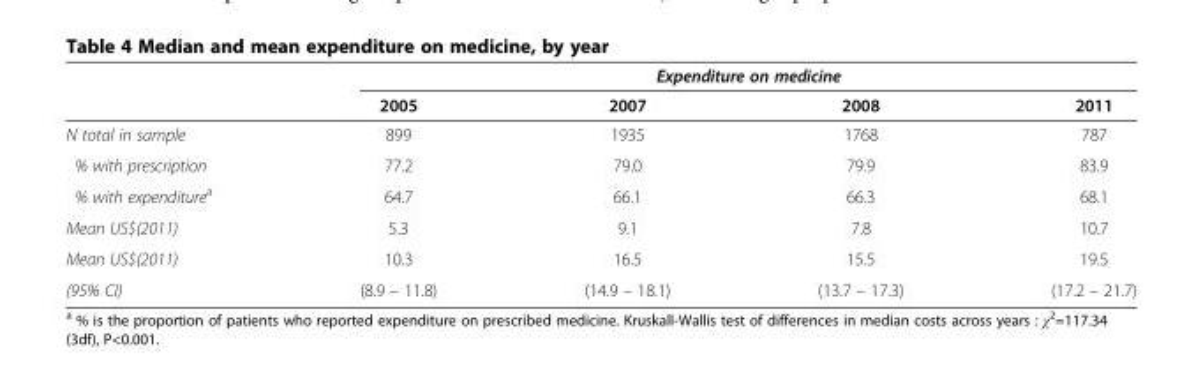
<table><thead><tr><td rowspan="2"></td><td colspan="4">Expenditure on medicine</td></tr><tr><td>2005</td><td>2007</td><td>2008</td><td>2011</td></tr></thead><tbody><tr><td>N total in sample</td><td>899</td><td>1935</td><td>1768</td><td>787</td></tr><tr><td>% with prescription</td><td>77.2</td><td>79.0</td><td>79.9</td><td>83.9</td></tr><tr><td>% with expenditure<sup>a</sup></td><td>64.7</td><td>66.1</td><td>66.3</td><td>68.1</td></tr><tr><td>Mean US$(2011)</td><td>5.3</td><td>9.1</td><td>7.8</td><td>10.7</td></tr><tr><td>Mean US$(2011)</td><td>10.3</td><td>16.5</td><td>15.5</td><td>19.5</td></tr><tr><td>(95% CI)</td><td>(8.9 – 11.8)</td><td>(14.9 – 18.1)</td><td>(13.7 – 17.3)</td><td>(17.2 – 21.7)</td></tr></tbody></table>